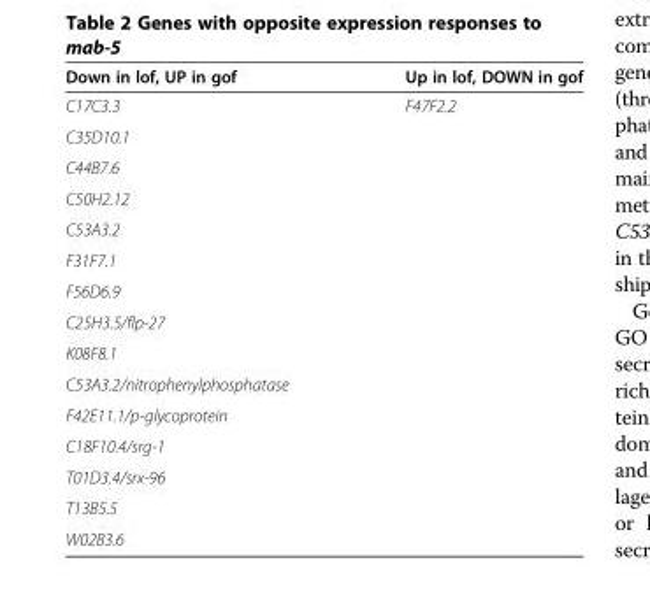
<table><thead><tr><td>Down in lof, UP in gof</td><td>Up in lof, DOWN in gof</td></tr></thead><tbody><tr><td>C17C3.3</td><td rowspan="14">F47F2.2</td></tr><tr><td>C35D10.1</td></tr><tr><td>C44B7.6</td></tr><tr><td>C50H2.12</td></tr><tr><td>C53A3.2</td></tr><tr><td>F31F7.1</td></tr><tr><td>F56D6.9</td></tr><tr><td>C25H3.5/flp-27</td></tr><tr><td>K08F8.1</td></tr><tr><td>C53A3.2/nitrophenylphosphatase</td></tr><tr><td>F42E11.1/p-glycoprotein</td></tr><tr><td>C18F10.4/srg-1</td></tr><tr><td>T01D3.4/srx-96</td></tr><tr><td>T13B5.5</td></tr><tr><td>W02B3.6</td><td></td></tr></tbody></table>